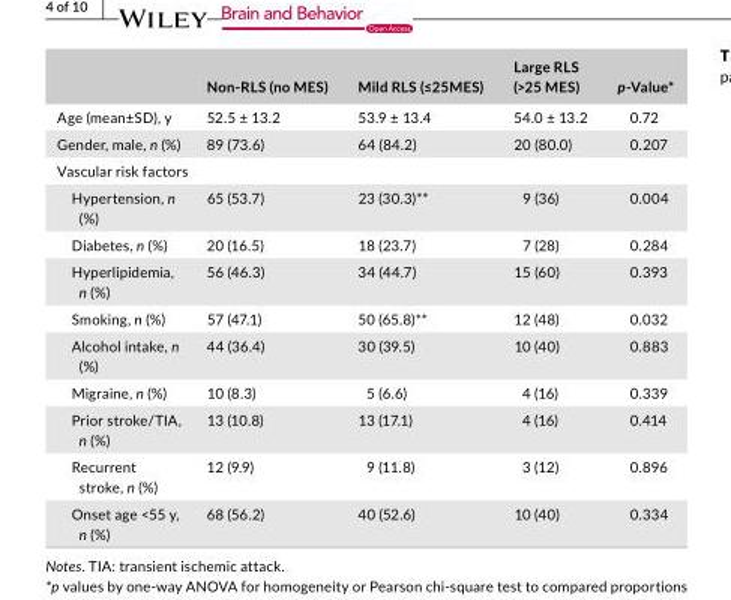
<table><thead><tr><td></td><td>Non‐RLS (no MES)</td><td>Mild RLS (≤25MES)</td><td>Large RLS (&gt;25 MES)</td><td>p‐Value*</td></tr></thead><tbody><tr><td>Age (mean±SD), y</td><td>52.5 ± 13.2</td><td>53.9 ± 13.4</td><td>54.0 ± 13.2</td><td>0.72</td></tr><tr><td>Gender, male, n (%)</td><td>89 (73.6)</td><td>64 (84.2)</td><td>20 (80.0)</td><td>0.207</td></tr><tr><td colspan="5">Vascular risk factors</td></tr><tr><td>Hypertension, n (%)</td><td>65 (53.7)</td><td>23 (30.3)**</td><td>9 (36)</td><td>0.004</td></tr><tr><td>Diabetes, n (%)</td><td>20 (16.5)</td><td>18 (23.7)</td><td>7 (28)</td><td>0.284</td></tr><tr><td>Hyperlipidemia, n (%)</td><td>56 (46.3)</td><td>34 (44.7)</td><td>15 (60)</td><td>0.393</td></tr><tr><td>Smoking, n (%)</td><td>57 (47.1)</td><td>50 (65.8)**</td><td>12 (48)</td><td>0.032</td></tr><tr><td>Alcohol intake, n (%)</td><td>44 (36.4)</td><td>30 (39.5)</td><td>10 (40)</td><td>0.883</td></tr><tr><td>Migraine, n (%)</td><td>10 (8.3)</td><td>5 (6.6)</td><td>4 (16)</td><td>0.339</td></tr><tr><td>Prior stroke/TIA, n (%)</td><td>13 (10.8)</td><td>13 (17.1)</td><td>4 (16)</td><td>0.414</td></tr><tr><td>Recurrent stroke, n (%)</td><td>12 (9.9)</td><td>9 (11.8)</td><td>3 (12)</td><td>0.896</td></tr><tr><td>Onset age &lt;55 y, n (%)</td><td>68 (56.2)</td><td>40 (52.6)</td><td>10 (40)</td><td>0.334</td></tr></tbody></table>